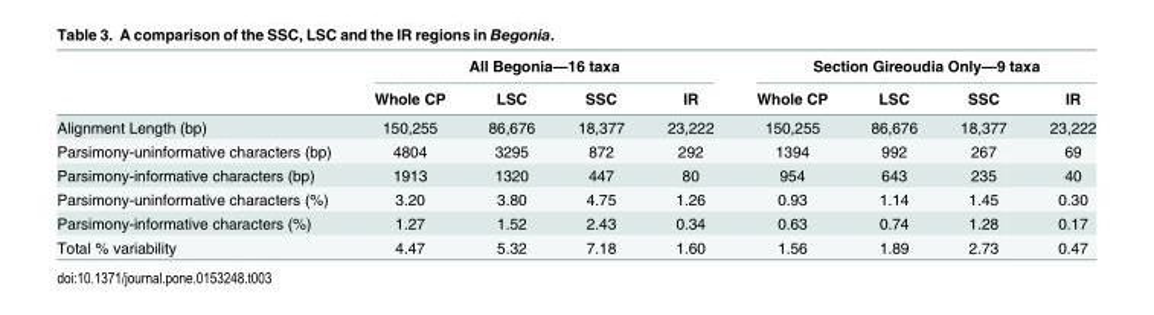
<table><thead><tr><td rowspan="2"></td><td colspan="4">All Begonia—16 taxa</td><td colspan="4">Section Gireoudia Only—9 taxa</td></tr><tr><td>Whole CP</td><td>LSC</td><td>SSC</td><td>IR</td><td>Whole CP</td><td>LSC</td><td>SSC</td><td>IR</td></tr></thead><tbody><tr><td>Alignment Length (bp)</td><td>150,255</td><td>86,676</td><td>18,377</td><td>23,222</td><td>150,255</td><td>86,676</td><td>18,377</td><td>23,222</td></tr><tr><td>Parsimony-uninformative characters (bp)</td><td>4804</td><td>3295</td><td>872</td><td>292</td><td>1394</td><td>992</td><td>267</td><td>69</td></tr><tr><td>Parsimony-informative characters (bp)</td><td>1913</td><td>1320</td><td>447</td><td>80</td><td>954</td><td>643</td><td>235</td><td>40</td></tr><tr><td>Parsimony-uninformative characters (%)</td><td>3.20</td><td>3.80</td><td>4.75</td><td>1.26</td><td>0.93</td><td>1.14</td><td>1.45</td><td>0.30</td></tr><tr><td>Parsimony-informative characters (%)</td><td>1.27</td><td>1.52</td><td>2.43</td><td>0.34</td><td>0.63</td><td>0.74</td><td>1.28</td><td>0.17</td></tr><tr><td>Total % variability</td><td>4.47</td><td>5.32</td><td>7.18</td><td>1.60</td><td>1.56</td><td>1.89</td><td>2.73</td><td>0.47</td></tr></tbody></table>